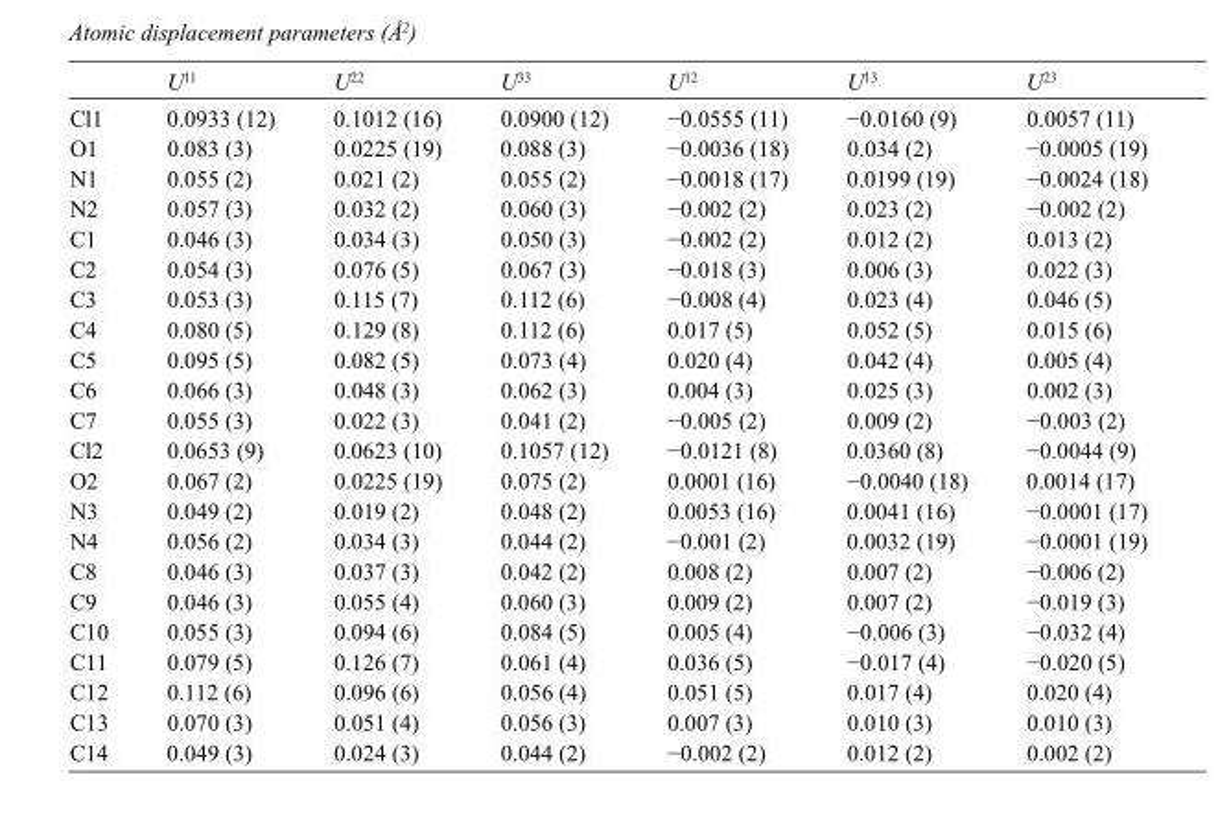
<table><thead><tr><td></td><td>U<sup>11</sup></td><td>U<sup>22</sup></td><td>U<sup>33</sup></td><td>U<sup>12</sup></td><td>U<sup>13</sup></td><td>U<sup>23</sup></td></tr></thead><tbody><tr><td>Cl1</td><td>0.0933 (12)</td><td>0.1012 (16)</td><td>0.0900 (12)</td><td>−0.0555 (11)</td><td>−0.0160 (9)</td><td>0.0057 (11)</td></tr><tr><td>O1</td><td>0.083 (3)</td><td>0.0225 (19)</td><td>0.088 (3)</td><td>−0.0036 (18)</td><td>0.034 (2)</td><td>−0.0005 (19)</td></tr><tr><td>N1</td><td>0.055 (2)</td><td>0.021 (2)</td><td>0.055 (2)</td><td>−0.0018 (17)</td><td>0.0199 (19)</td><td>−0.0024 (18)</td></tr><tr><td>N2</td><td>0.057 (3)</td><td>0.032 (2)</td><td>0.060 (3)</td><td>−0.002 (2)</td><td>0.023 (2)</td><td>−0.002 (2)</td></tr><tr><td>C1</td><td>0.046 (3)</td><td>0.034 (3)</td><td>0.050 (3)</td><td>−0.002 (2)</td><td>0.012 (2)</td><td>0.013 (2)</td></tr><tr><td>C2</td><td>0.054 (3)</td><td>0.076 (5)</td><td>0.067 (3)</td><td>−0.018 (3)</td><td>0.006 (3)</td><td>0.022 (3)</td></tr><tr><td>C3</td><td>0.053 (3)</td><td>0.115 (7)</td><td>0.112 (6)</td><td>−0.008 (4)</td><td>0.023 (4)</td><td>0.046 (5)</td></tr><tr><td>C4</td><td>0.080 (5)</td><td>0.129 (8)</td><td>0.112 (6)</td><td>0.017 (5)</td><td>0.052 (5)</td><td>0.015 (6)</td></tr><tr><td>C5</td><td>0.095 (5)</td><td>0.082 (5)</td><td>0.073 (4)</td><td>0.020 (4)</td><td>0.042 (4)</td><td>0.005 (4)</td></tr><tr><td>C6</td><td>0.066 (3)</td><td>0.048 (3)</td><td>0.062 (3)</td><td>0.004 (3)</td><td>0.025 (3)</td><td>0.002 (3)</td></tr><tr><td>C7</td><td>0.055 (3)</td><td>0.022 (3)</td><td>0.041 (2)</td><td>−0.005 (2)</td><td>0.009 (2)</td><td>−0.003 (2)</td></tr><tr><td>Cl2</td><td>0.0653 (9)</td><td>0.0623 (10)</td><td>0.1057 (12)</td><td>−0.0121 (8)</td><td>0.0360 (8)</td><td>−0.0044 (9)</td></tr><tr><td>O2</td><td>0.067 (2)</td><td>0.0225 (19)</td><td>0.075 (2)</td><td>0.0001 (16)</td><td>−0.0040 (18)</td><td>0.0014 (17)</td></tr><tr><td>N3</td><td>0.049 (2)</td><td>0.019 (2)</td><td>0.048 (2)</td><td>0.0053 (16)</td><td>0.0041 (16)</td><td>−0.0001 (17)</td></tr><tr><td>N4</td><td>0.056 (2)</td><td>0.034 (3)</td><td>0.044 (2)</td><td>−0.001 (2)</td><td>0.0032 (19)</td><td>−0.0001 (19)</td></tr><tr><td>C8</td><td>0.046 (3)</td><td>0.037 (3)</td><td>0.042 (2)</td><td>0.008 (2)</td><td>0.007 (2)</td><td>−0.006 (2)</td></tr><tr><td>C9</td><td>0.046 (3)</td><td>0.055 (4)</td><td>0.060 (3)</td><td>0.009 (2)</td><td>0.007 (2)</td><td>−0.019 (3)</td></tr><tr><td>C10</td><td>0.055 (3)</td><td>0.094 (6)</td><td>0.084 (5)</td><td>0.005 (4)</td><td>−0.006 (3)</td><td>−0.032 (4)</td></tr><tr><td>C11</td><td>0.079 (5)</td><td>0.126 (7)</td><td>0.061 (4)</td><td>0.036 (5)</td><td>−0.017 (4)</td><td>−0.020 (5)</td></tr><tr><td>C12</td><td>0.112 (6)</td><td>0.096 (6)</td><td>0.056 (4)</td><td>0.051 (5)</td><td>0.017 (4)</td><td>0.020 (4)</td></tr><tr><td>C13</td><td>0.070 (3)</td><td>0.051 (4)</td><td>0.056 (3)</td><td>0.007 (3)</td><td>0.010 (3)</td><td>0.010 (3)</td></tr><tr><td>C14</td><td>0.049 (3)</td><td>0.024 (3)</td><td>0.044 (2)</td><td>−0.002 (2)</td><td>0.012 (2)</td><td>0.002 (2)</td></tr></tbody></table>